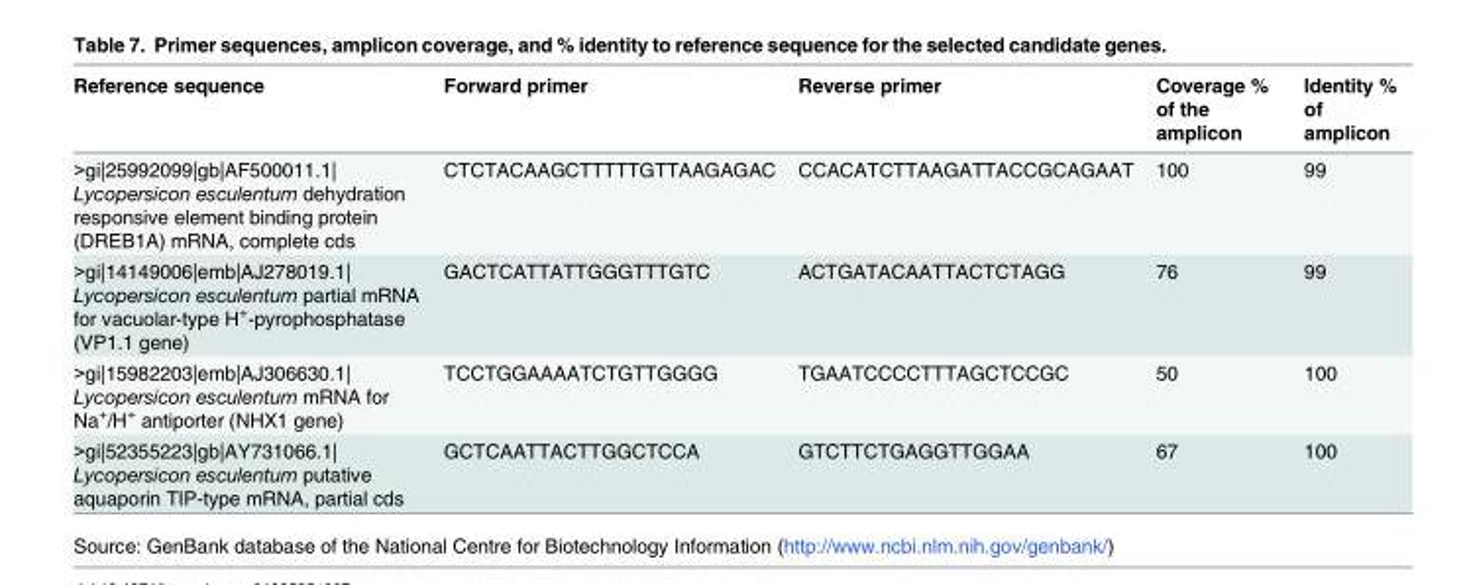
<table><thead><tr><td>Reference sequence</td><td>Forward primer</td><td>Reverse primer</td><td>Coverage % of the amplicon</td><td>Identity % of amplicon</td></tr></thead><tbody><tr><td>&gt;gi|25992099|gb|AF500011.1| Lycopersicon esculentum dehydration responsive element binding protein (DREB1A) mRNA, complete cds</td><td>CTCTACAAGCTTTTTGTTAAGAGAC</td><td>CCACATCTTAAGATTACCGCAGAAT</td><td>100</td><td>99</td></tr><tr><td>&gt;gi|14149006|emb|AJ278019.1| Lycopersicon esculentum partial mRNA for vacuolar-type H<sup>+</sup>-pyrophosphatase (VP1.1 gene)</td><td>GACTCATTATTGGGTTTGTC</td><td>ACTGATACAATTACTCTAGG</td><td>76</td><td>99</td></tr><tr><td>&gt;gi|15982203|emb|AJ306630.1| Lycopersicon esculentum mRNA for Na<sup>+</sup>/H<sup>+</sup> antiporter (NHX1 gene)</td><td>TCCTGGAAAATCTGTTGGGG</td><td>TGAATCCCCTTTAGCTCCGC</td><td>50</td><td>100</td></tr><tr><td>&gt;gi|52355223|gb|AY731066.1| Lycopersicon esculentum putative aquaporin TIP-type mRNA, partial cds</td><td>GCTCAATTACTTGGCTCCA</td><td>GTCTTCTGAGGTTGGAA</td><td>67</td><td>100</td></tr></tbody></table>